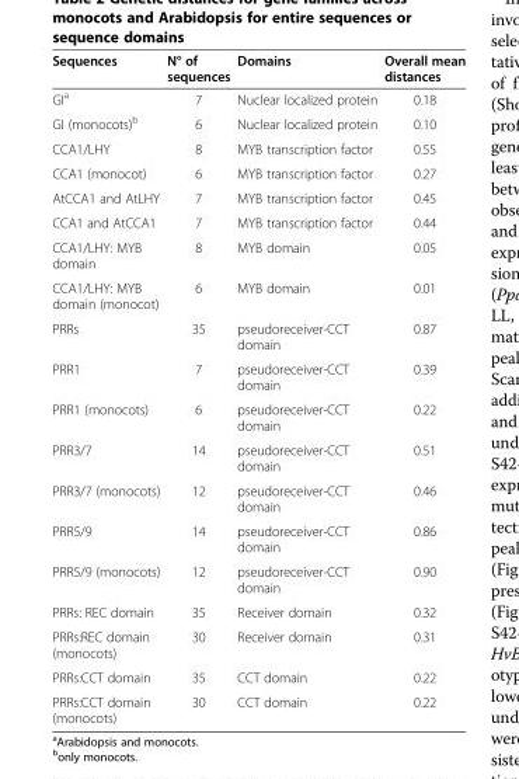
<table><thead><tr><td>Sequences</td><td>N° of sequences</td><td>Domains</td><td>Overall mean distances</td></tr></thead><tbody><tr><td>GI<sup>a</sup></td><td>7</td><td>Nuclear localized protein</td><td>0.18</td></tr><tr><td>GI (monocots)<sup>b</sup></td><td>6</td><td>Nuclear localized protein</td><td>0.10</td></tr><tr><td>CCA1/LHY</td><td>8</td><td>MYB transcription factor</td><td>0.55</td></tr><tr><td>CCA1 (monocot)</td><td>6</td><td>MYB transcription factor</td><td>0.27</td></tr><tr><td>AtCCA1 and AtLHY</td><td>7</td><td>MYB transcription factor</td><td>0.45</td></tr><tr><td>CCA1 and AtCCA1</td><td>7</td><td>MYB transcription factor</td><td>0.44</td></tr><tr><td>CCA1/LHY: MYB domain</td><td>8</td><td>MYB domain</td><td>0.05</td></tr><tr><td>CCA1/LHY: MYB domain (monocot)</td><td>6</td><td>MYB domain</td><td>0.01</td></tr><tr><td>PRRs</td><td>35</td><td>pseudoreceiver-CCT domain</td><td>0.87</td></tr><tr><td>PRR1</td><td>7</td><td>pseudoreceiver-CCT domain</td><td>0.39</td></tr><tr><td>PRR1 (monocots)</td><td>6</td><td>pseudoreceiver-CCT domain</td><td>0.22</td></tr><tr><td>PRR3/7</td><td>14</td><td>pseudoreceiver-CCT domain</td><td>0.51</td></tr><tr><td>PRR3/7 (monocots)</td><td>12</td><td>pseudoreceiver-CCT domain</td><td>0.46</td></tr><tr><td>PRR5/9</td><td>14</td><td>pseudoreceiver-CCT domain</td><td>0.86</td></tr><tr><td>PRR5/9 (monocots)</td><td>12</td><td>pseudoreceiver-CCT domain</td><td>0.90</td></tr><tr><td>PRRs: REC domain</td><td>35</td><td>Receiver domain</td><td>0.32</td></tr><tr><td>PRRs:REC domain (monocots)</td><td>30</td><td>Receiver domain</td><td>0.31</td></tr><tr><td>PRRs:CCT domain</td><td>35</td><td>CCT domain</td><td>0.22</td></tr><tr><td>PRRs:CCT domain (monocots)</td><td>30</td><td>CCT domain</td><td>0.22</td></tr></tbody></table>